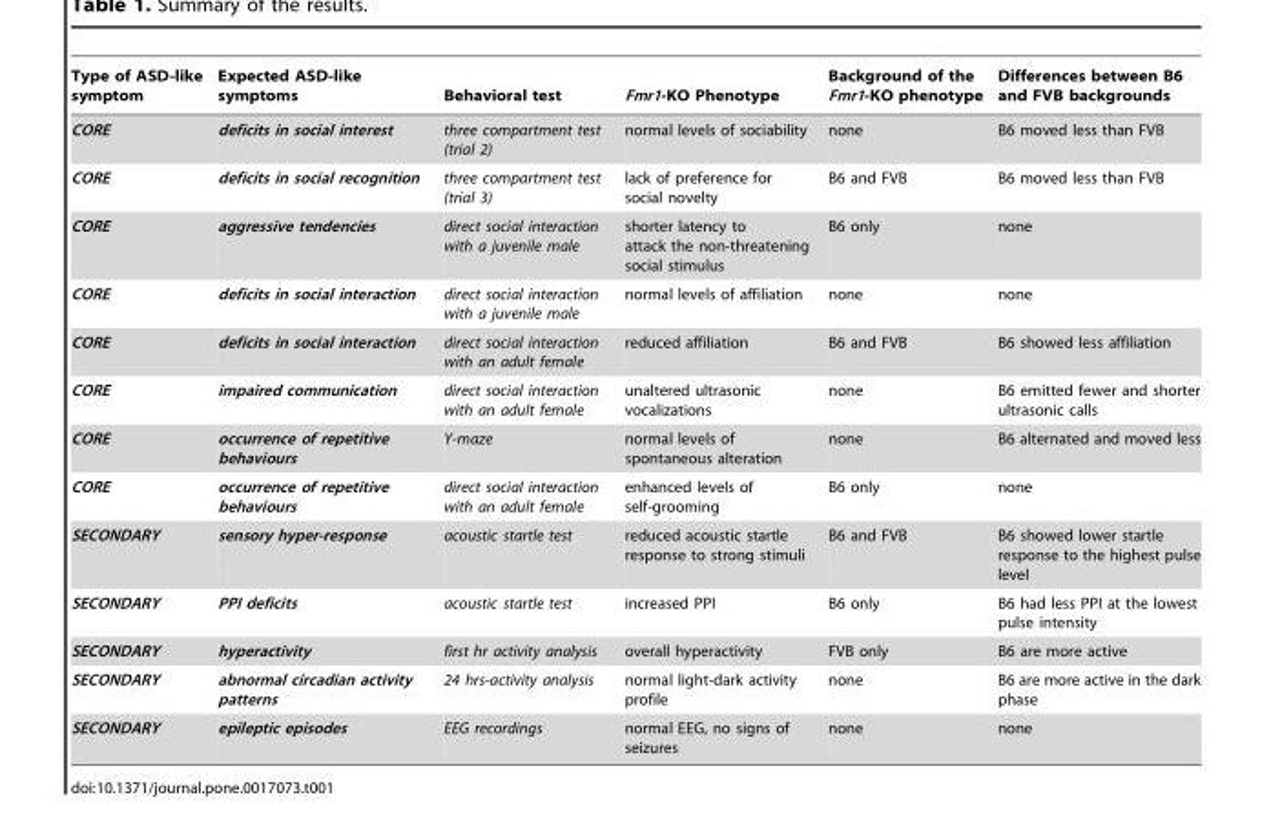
<table><thead><tr><td>Type of ASD-like symptom</td><td>Expected ASD-like symptoms</td><td>Behavioral test</td><td>Fmr1-KO Phenotype</td><td>Background of the Fmr1-KO phenotype</td><td>Differences between B6 and FVB backgrounds</td></tr></thead><tbody><tr><td>CORE</td><td>deficits in social interest</td><td>three compartment test (trial 2)</td><td>normal levels of sociability</td><td>none</td><td>B6 moved less than FVB</td></tr><tr><td>CORE</td><td>deficits in social recognition</td><td>three compartment test (trial 3)</td><td>lack of preference for social novelty</td><td>B6 and FVB</td><td>B6 moved less than FVB</td></tr><tr><td>CORE</td><td>aggressive tendencies</td><td>direct social interaction with a juvenile male</td><td>shorter latency to attack the non-threatening social stimulus</td><td>B6 only</td><td>none</td></tr><tr><td>CORE</td><td>deficits in social interaction</td><td>direct social interaction with a juvenile male</td><td>normal levels of affiliation</td><td>none</td><td>none</td></tr><tr><td>CORE</td><td>deficits in social interaction</td><td>direct social interaction with an adult female</td><td>reduced affiliation</td><td>B6 and FVB</td><td>B6 showed less affiliation</td></tr><tr><td>CORE</td><td>impaired communication</td><td>direct social interaction with an adult female</td><td>unaltered ultrasonic vocalizations</td><td>none</td><td>B6 emitted fewer and shorter ultrasonic calls</td></tr><tr><td>CORE</td><td>occurrence of repetitive behaviours</td><td>Y-maze</td><td>normal levels of spontaneous alteration</td><td>none</td><td>B6 alternated and moved less</td></tr><tr><td>CORE</td><td>occurrence of repetitive behaviours</td><td>direct social interaction with an adult female</td><td>enhanced levels of self-grooming</td><td>B6 only</td><td>none</td></tr><tr><td>SECONDARY</td><td>sensory hyper-response</td><td>acoustic startle test</td><td>reduced acoustic startle response to strong stimuli</td><td>B6 and FVB</td><td>B6 showed lower startle response to the highest pulse level</td></tr><tr><td>SECONDARY</td><td>PPI deficits</td><td>acoustic startle test</td><td>increased PPI</td><td>B6 only</td><td>B6 had less PPI at the lowest pulse intensity</td></tr><tr><td>SECONDARY</td><td>hyperactivity</td><td>first hr activity analysis</td><td>overall hyperactivity</td><td>FVB only</td><td>B6 are more active</td></tr><tr><td>SECONDARY</td><td>abnormal circadian activity patterns</td><td>24 hrs-activity analysis</td><td>normal light-dark activity profile</td><td>none</td><td>B6 are more active in the dark phase</td></tr><tr><td>SECONDARY</td><td>epileptic episodes</td><td>EEG recordings</td><td>normal EEG, no signs of seizures</td><td>none</td><td>none</td></tr></tbody></table>